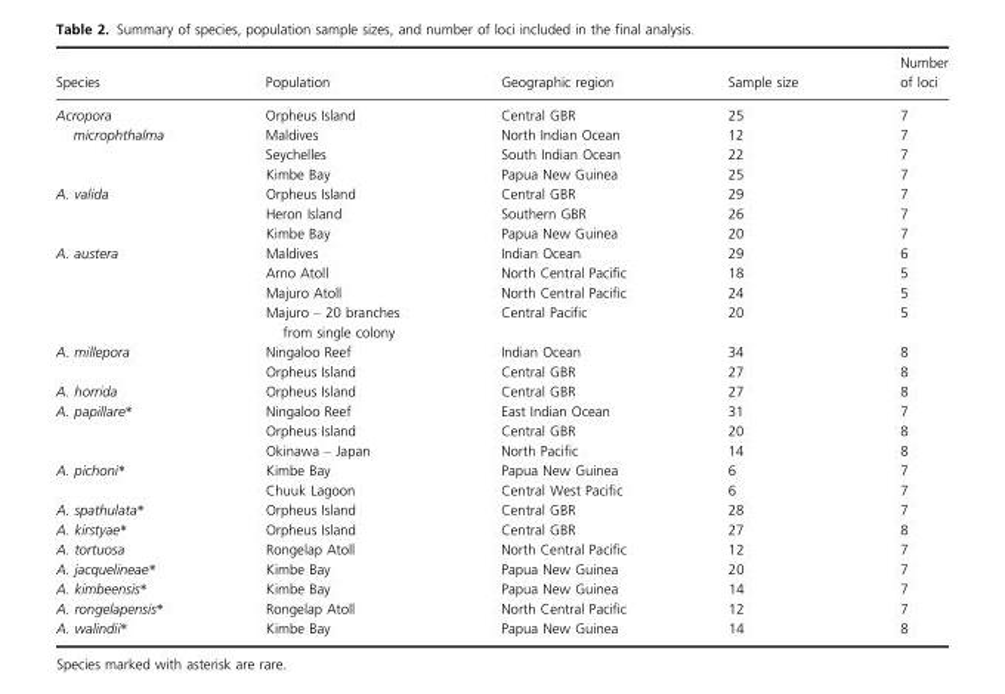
<table><thead><tr><td>Species</td><td>Population</td><td>Geographic region</td><td>Sample size</td><td>Number of loci</td></tr></thead><tbody><tr><td rowspan="4">Acropora microphthalma</td><td>Orpheus Island</td><td>Central GBR</td><td>25</td><td>7</td></tr><tr><td>Maldives</td><td>North Indian Ocean</td><td>12</td><td>7</td></tr><tr><td>Seychelles</td><td>South Indian Ocean</td><td>22</td><td>7</td></tr><tr><td>Kimbe Bay</td><td>Papua New Guinea</td><td>25</td><td>7</td></tr><tr><td rowspan="3">A. valida</td><td>Orpheus Island</td><td>Central GBR</td><td>29</td><td>7</td></tr><tr><td>Heron Island</td><td>Southern GBR</td><td>26</td><td>7</td></tr><tr><td>Kimbe Bay</td><td>Papua New Guinea</td><td>20</td><td>7</td></tr><tr><td rowspan="4">A. austera</td><td>Maldives</td><td>Indian Ocean</td><td>29</td><td>6</td></tr><tr><td>Arno Atoll</td><td>North Central Pacific</td><td>18</td><td>5</td></tr><tr><td>Majuro Atoll</td><td>North Central Pacific</td><td>24</td><td>5</td></tr><tr><td>Majuro – 20 branches from single colony</td><td>Central Pacific</td><td>20</td><td>5</td></tr><tr><td rowspan="2">A. millepora</td><td>Ningaloo Reef</td><td>Indian Ocean</td><td>34</td><td>8</td></tr><tr><td>Orpheus Island</td><td>Central GBR</td><td>27</td><td>8</td></tr><tr><td>A. horrida</td><td>Orpheus Island</td><td>Central GBR</td><td>27</td><td>8</td></tr><tr><td rowspan="3">A. papillare*</td><td>Ningaloo Reef</td><td>East Indian Ocean</td><td>31</td><td>7</td></tr><tr><td>Orpheus Island</td><td>Central GBR</td><td>20</td><td>8</td></tr><tr><td>Okinawa – Japan</td><td>North Pacific</td><td>14</td><td>8</td></tr><tr><td rowspan="2">A. pichoni*</td><td>Kimbe Bay</td><td>Papua New Guinea</td><td>6</td><td>7</td></tr><tr><td>Chuuk Lagoon</td><td>Central West Pacific</td><td>6</td><td>7</td></tr><tr><td>A. spathulata*</td><td>Orpheus Island</td><td>Central GBR</td><td>28</td><td>7</td></tr><tr><td>A. kirstyae*</td><td>Orpheus Island</td><td>Central GBR</td><td>27</td><td>8</td></tr><tr><td>A. tortuosa</td><td>Rongelap Atoll</td><td>North Central Pacific</td><td>12</td><td>7</td></tr><tr><td>A. jacquelineae*</td><td>Kimbe Bay</td><td>Papua New Guinea</td><td>20</td><td>7</td></tr><tr><td>A. kimbeensis*</td><td>Kimbe Bay</td><td>Papua New Guinea</td><td>14</td><td>7</td></tr><tr><td>A. rongelapensis*</td><td>Rongelap Atoll</td><td>North Central Pacific</td><td>12</td><td>7</td></tr><tr><td>A. walindii*</td><td>Kimbe Bay</td><td>Papua New Guinea</td><td>14</td><td>8</td></tr></tbody></table>